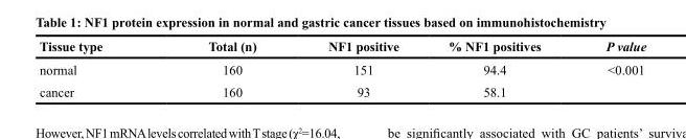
<table><thead><tr><td>Tissue type</td><td>Total (n)</td><td>NF1 positive</td><td>% NF1 positives</td><td>P value</td></tr></thead><tbody><tr><td>normal</td><td>160</td><td>151</td><td>94.4</td><td>&lt;0.001</td></tr><tr><td>cancer</td><td>160</td><td>93</td><td>58.1</td><td></td></tr></tbody></table>